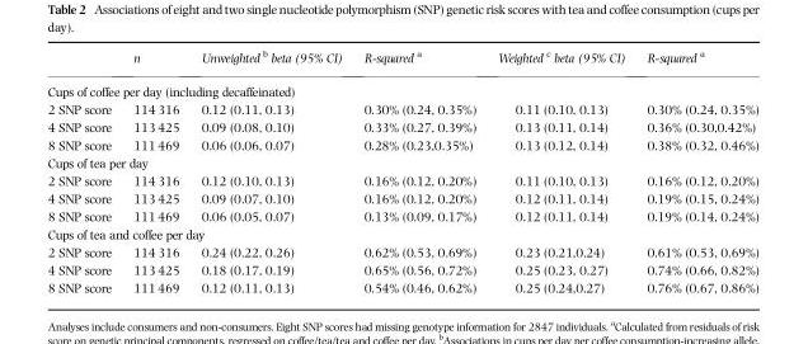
<table><thead><tr><td></td><td>n</td><td>Unweighted b beta (95% CI)</td><td>R-squared a</td><td>Weighted c beta (95% CI)</td><td>R-squared a</td></tr></thead><tbody><tr><td colspan="6">Cups of coffee per day (including decaffeinated)</td></tr><tr><td>2 SNP score</td><td>114 316</td><td>0.12 (0.11, 0.13)</td><td>0.30% (0.24, 0.35%)</td><td>0.11 (0.10, 0.13)</td><td>0.30% (0.24, 0.35%)</td></tr><tr><td>4 SNP score</td><td>113 425</td><td>0.09 (0.08, 0.10)</td><td>0.33% (0.27, 0.39%)</td><td>0.13 (0.11, 0.14)</td><td>0.36% (0.30,0.42%)</td></tr><tr><td>8 SNP score</td><td>111 469</td><td>0.06 (0.06, 0.07)</td><td>0.28% (0.23,0.35%)</td><td>0.13 (0.12, 0.14)</td><td>0.38% (0.32, 0.46%)</td></tr><tr><td colspan="6">Cups of tea per day</td></tr><tr><td>2 SNP score</td><td>114 316</td><td>0.12 (0.10, 0.13)</td><td>0.16% (0.12, 0.20%)</td><td>0.11 (0.10, 0.13)</td><td>0.16% (0.12, 0.20%)</td></tr><tr><td>4 SNP score</td><td>113 425</td><td>0.09 (0.07, 0.10)</td><td>0.16% (0.12, 0.20%)</td><td>0.12 (0.11, 0.14)</td><td>0.19% (0.15, 0.24%)</td></tr><tr><td>8 SNP score</td><td>111 469</td><td>0.06 (0.05, 0.07)</td><td>0.13% (0.09, 0.17%)</td><td>0.12 (0.11, 0.14)</td><td>0.19% (0.14, 0.24%)</td></tr><tr><td colspan="6">Cups of tea and coffee per day</td></tr><tr><td>2 SNP score</td><td>114 316</td><td>0.24 (0.22, 0.26)</td><td>0.62% (0.53, 0.69%)</td><td>0.23 (0.21,0.24)</td><td>0.61% (0.53, 0.69%)</td></tr><tr><td>4 SNP score</td><td>113 425</td><td>0.18 (0.17, 0.19)</td><td>0.65% (0.56, 0.72%)</td><td>0.25 (0.23, 0.27)</td><td>0.74% (0.66, 0.82%)</td></tr><tr><td>8 SNP score</td><td>111 469</td><td>0.12 (0.11, 0.13)</td><td>0.54% (0.46, 0.62%)</td><td>0.25 (0.24,0.27)</td><td>0.76% (0.67, 0.86%)</td></tr></tbody></table>